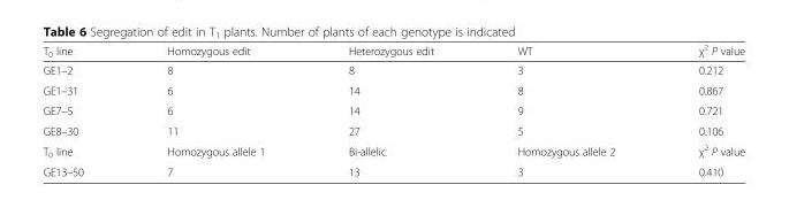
<table><thead><tr><td>T<sub>0</sub> line</td><td>Homozygous edit</td><td>Heterozygous edit</td><td>WT</td><td>χ<sup>2</sup> P value</td></tr></thead><tbody><tr><td>GE1–2</td><td>8</td><td>8</td><td>3</td><td>0.212</td></tr><tr><td>GE1–31</td><td>6</td><td>14</td><td>8</td><td>0.867</td></tr><tr><td>GE7–5</td><td>6</td><td>14</td><td>9</td><td>0.721</td></tr><tr><td>GE8–30</td><td>11</td><td>27</td><td>5</td><td>0.106</td></tr><tr><td>T<sub>0</sub> line</td><td>Homozygous allele 1</td><td>Bi-allelic</td><td>Homozygous allele 2</td><td>χ<sup>2</sup> P value</td></tr><tr><td>GE13–50</td><td>7</td><td>13</td><td>3</td><td>0.410</td></tr></tbody></table>